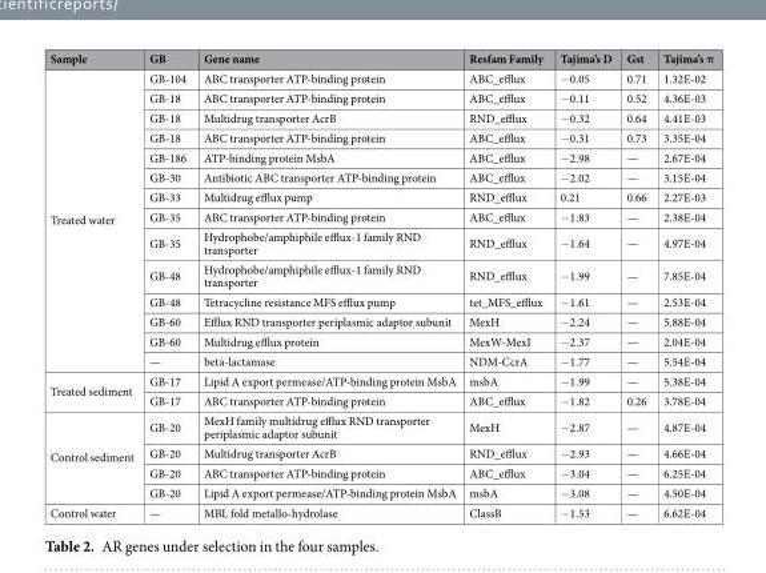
<table><thead><tr><td>Sample</td><td>GB</td><td>Gene name</td><td>Resfam Family</td><td>Tajima’s D</td><td>Gst</td><td>Tajima’s π</td></tr></thead><tbody><tr><td rowspan="14">Treated water</td><td>GB-104</td><td>ABC transporter ATP-binding protein</td><td>ABC_efflux</td><td>−0.05</td><td>0.71</td><td>1.32E-02</td></tr><tr><td>GB-18</td><td>ABC transporter ATP-binding protein</td><td>ABC_efflux</td><td>−0.11</td><td>0.52</td><td>4.36E-03</td></tr><tr><td>GB-18</td><td>Multidrug transporter AcrB</td><td>RND_efflux</td><td>−0.32</td><td>0.64</td><td>4.41E-03</td></tr><tr><td>GB-18</td><td>ABC transporter ATP-binding protein</td><td>ABC_efflux</td><td>−0.31</td><td>0.73</td><td>3.35E-04</td></tr><tr><td>GB-186</td><td>ATP-binding protein MsbA</td><td>ABC_efflux</td><td>−2.98</td><td>—</td><td>2.67E-04</td></tr><tr><td>GB-30</td><td>Antibiotic ABC transporter ATP-binding protein</td><td>ABC_efflux</td><td>−2.02</td><td>—</td><td>3.15E-04</td></tr><tr><td>GB-33</td><td>Multidrug efflux pump</td><td>RND_efflux</td><td>0.21</td><td>0.66</td><td>2.27E-03</td></tr><tr><td>GB-35</td><td>ABC transporter ATP-binding protein</td><td>ABC_efflux</td><td>−1.83</td><td>—</td><td>2.38E-04</td></tr><tr><td>GB-35</td><td>Hydrophobe/amphiphile efflux-1 family RND transporter</td><td>RND_efflux</td><td>−1.64</td><td>—</td><td>4.97E-04</td></tr><tr><td>GB-48</td><td>Hydrophobe/amphiphile efflux-1 family RND transporter</td><td>RND_efflux</td><td>−1.99</td><td>—</td><td>7.85E-04</td></tr><tr><td>GB-48</td><td>Tetracycline resistance MFS efflux pump</td><td>tet_MFS_efflux</td><td>−1.61</td><td>—</td><td>2.53E-04</td></tr><tr><td>GB-60</td><td>Efflux RND transporter periplasmic adaptor subunit</td><td>MexH</td><td>−2.24</td><td>—</td><td>5.88E-04</td></tr><tr><td>GB-60</td><td>Multidrug efflux protein</td><td>MexW-MexI</td><td>−2.37</td><td>—</td><td>2.04E-04</td></tr><tr><td>—</td><td>beta-lactamase</td><td>NDM-CcrA</td><td>−1.77</td><td>—</td><td>5.54E-04</td></tr><tr><td rowspan="2">Treated sediment</td><td>GB-17</td><td>Lipid A export permease/ATP-binding protein MsbA</td><td>msbA</td><td>−1.99</td><td>—</td><td>5.38E-04</td></tr><tr><td>GB-17</td><td>ABC transporter ATP-binding protein</td><td>ABC_efflux</td><td>−1.82</td><td>0.26</td><td>3.78E-04</td></tr><tr><td rowspan="4">Control sediment</td><td>GB-20</td><td>MexH family multidrug efflux RND transporter periplasmic adaptor subunit</td><td>MexH</td><td>−2.87</td><td>—</td><td>4.87E-04</td></tr><tr><td>GB-20</td><td>Multidrug transporter AcrB</td><td>RND_efflux</td><td>−2.93</td><td>—</td><td>4.66E-04</td></tr><tr><td>GB-20</td><td>ABC transporter ATP-binding protein</td><td>ABC_efflux</td><td>−3.04</td><td>—</td><td>6.25E-04</td></tr><tr><td>GB-20</td><td>Lipid A export permease/ATP-binding protein MsbA</td><td>msbA</td><td>−3.08</td><td>—</td><td>4.50E-04</td></tr><tr><td>Control water</td><td>—</td><td>MBL fold metallo-hydrolase</td><td>ClassB</td><td>−1.53</td><td>—</td><td>6.62E-04</td></tr></tbody></table>